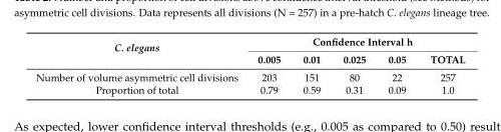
<table><thead><tr><td rowspan="2">C. elegans</td><td colspan="5">Confidence Interval h</td></tr><tr><td>0.005</td><td>0.01</td><td>0.025</td><td>0.05</td><td>TOTAL</td></tr></thead><tbody><tr><td>Number of volume asymmetric cell divisions</td><td>203</td><td>151</td><td>80</td><td>22</td><td>257</td></tr><tr><td>Proportion of total</td><td>0.79</td><td>0.59</td><td>0.31</td><td>0.09</td><td>1.0</td></tr></tbody></table>